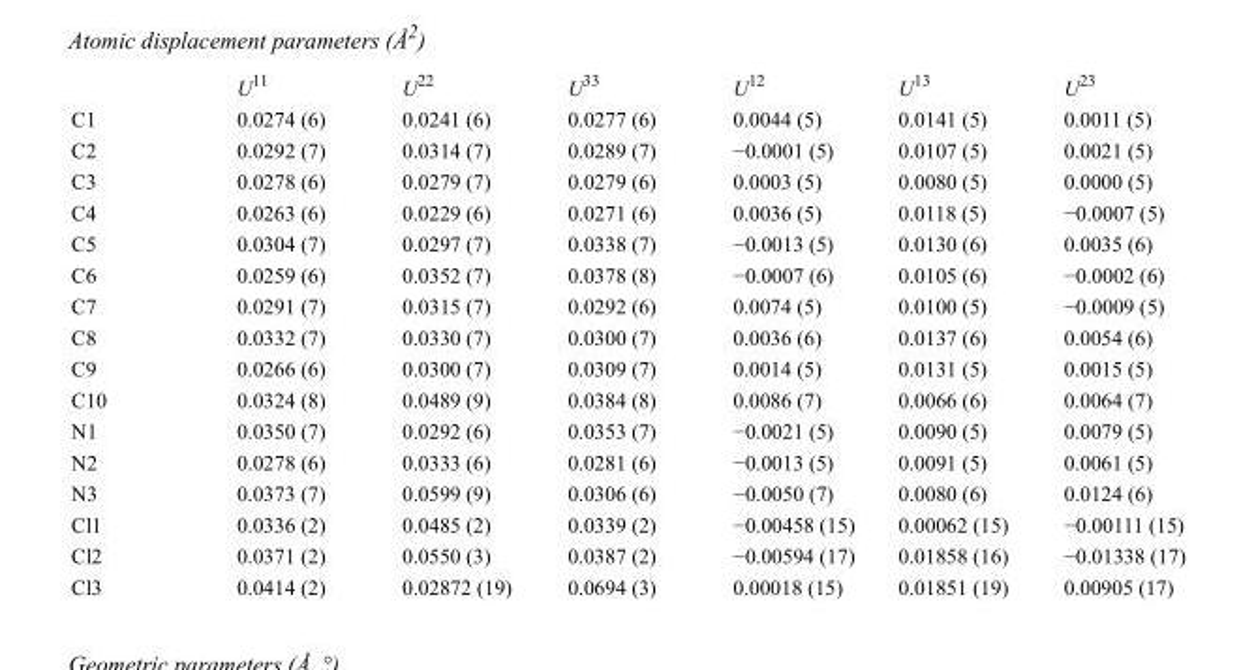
<table><thead><tr><td></td><td>U<sup>11</sup></td><td>U<sup>22</sup></td><td>U<sup>33</sup></td><td>U<sup>12</sup></td><td>U<sup>13</sup></td><td>U<sup>23</sup></td></tr></thead><tbody><tr><td>C1</td><td>0.0274 (6)</td><td>0.0241 (6)</td><td>0.0277 (6)</td><td>0.0044 (5)</td><td>0.0141 (5)</td><td>0.0011 (5)</td></tr><tr><td>C2</td><td>0.0292 (7)</td><td>0.0314 (7)</td><td>0.0289 (7)</td><td>−0.0001 (5)</td><td>0.0107 (5)</td><td>0.0021 (5)</td></tr><tr><td>C3</td><td>0.0278 (6)</td><td>0.0279 (7)</td><td>0.0279 (6)</td><td>0.0003 (5)</td><td>0.0080 (5)</td><td>0.0000 (5)</td></tr><tr><td>C4</td><td>0.0263 (6)</td><td>0.0229 (6)</td><td>0.0271 (6)</td><td>0.0036 (5)</td><td>0.0118 (5)</td><td>−0.0007 (5)</td></tr><tr><td>C5</td><td>0.0304 (7)</td><td>0.0297 (7)</td><td>0.0338 (7)</td><td>−0.0013 (5)</td><td>0.0130 (6)</td><td>0.0035 (6)</td></tr><tr><td>C6</td><td>0.0259 (6)</td><td>0.0352 (7)</td><td>0.0378 (8)</td><td>−0.0007 (6)</td><td>0.0105 (6)</td><td>−0.0002 (6)</td></tr><tr><td>C7</td><td>0.0291 (7)</td><td>0.0315 (7)</td><td>0.0292 (6)</td><td>0.0074 (5)</td><td>0.0100 (5)</td><td>−0.0009 (5)</td></tr><tr><td>C8</td><td>0.0332 (7)</td><td>0.0330 (7)</td><td>0.0300 (7)</td><td>0.0036 (6)</td><td>0.0137 (6)</td><td>0.0054 (6)</td></tr><tr><td>C9</td><td>0.0266 (6)</td><td>0.0300 (7)</td><td>0.0309 (7)</td><td>0.0014 (5)</td><td>0.0131 (5)</td><td>0.0015 (5)</td></tr><tr><td>C10</td><td>0.0324 (8)</td><td>0.0489 (9)</td><td>0.0384 (8)</td><td>0.0086 (7)</td><td>0.0066 (6)</td><td>0.0064 (7)</td></tr><tr><td>N1</td><td>0.0350 (7)</td><td>0.0292 (6)</td><td>0.0353 (7)</td><td>−0.0021 (5)</td><td>0.0090 (5)</td><td>0.0079 (5)</td></tr><tr><td>N2</td><td>0.0278 (6)</td><td>0.0333 (6)</td><td>0.0281 (6)</td><td>−0.0013 (5)</td><td>0.0091 (5)</td><td>0.0061 (5)</td></tr><tr><td>N3</td><td>0.0373 (7)</td><td>0.0599 (9)</td><td>0.0306 (6)</td><td>−0.0050 (7)</td><td>0.0080 (6)</td><td>0.0124 (6)</td></tr><tr><td>Cl1</td><td>0.0336 (2)</td><td>0.0485 (2)</td><td>0.0339 (2)</td><td>−0.00458 (15)</td><td>0.00062 (15)</td><td>−0.00111 (15)</td></tr><tr><td>Cl2</td><td>0.0371 (2)</td><td>0.0550 (3)</td><td>0.0387 (2)</td><td>−0.00594 (17)</td><td>0.01858 (16)</td><td>−0.01338 (17)</td></tr><tr><td>Cl3</td><td>0.0414 (2)</td><td>0.02872 (19)</td><td>0.0694 (3)</td><td>0.00018 (15)</td><td>0.01851 (19)</td><td>0.00905 (17)</td></tr></tbody></table>